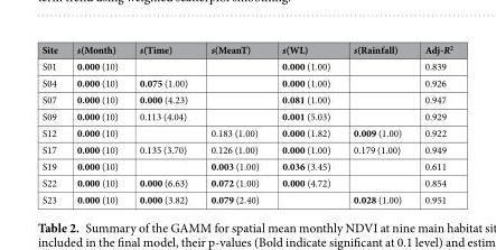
<table><thead><tr><td>Site</td><td>s(Month)</td><td>s(Time)</td><td>s(MeanT)</td><td>s(WL)</td><td>s(Rainfall)</td><td>Adj-R<sup>2</sup></td></tr></thead><tbody><tr><td>S01</td><td>0.000 (10)</td><td></td><td></td><td>0.000 (1.00)</td><td></td><td>0.839</td></tr><tr><td>S04</td><td>0.000 (10)</td><td>0.075 (1.00)</td><td></td><td>0.000 (1.00)</td><td></td><td>0.926</td></tr><tr><td>S07</td><td>0.000 (10)</td><td>0.000 (4.23)</td><td></td><td>0.081 (1.00)</td><td></td><td>0.947</td></tr><tr><td>S09</td><td>0.000 (10)</td><td>0.113 (4.04)</td><td></td><td>0.001 (5.03)</td><td></td><td>0.929</td></tr><tr><td>S12</td><td>0.000 (10)</td><td></td><td>0.183 (1.00)</td><td>0.000 (1.82)</td><td>0.009 (1.00)</td><td>0.922</td></tr><tr><td>S17</td><td>0.000 (10)</td><td>0.135 (3.70)</td><td>0.126 (1.00)</td><td>0.000 (1.00)</td><td>0.179 (1.00)</td><td>0.949</td></tr><tr><td>S19</td><td>0.000 (10)</td><td></td><td>0.003 (1.00)</td><td>0.036 (3.45)</td><td></td><td>0.611</td></tr><tr><td>S22</td><td>0.000 (10)</td><td>0.000 (6.63)</td><td>0.072 (1.00)</td><td>0.000 (4.72)</td><td></td><td>0.854</td></tr><tr><td>S23</td><td>0.000 (10)</td><td>0.000 (3.82)</td><td>0.079 (2.40)</td><td></td><td>0.028 (1.00)</td><td>0.951</td></tr></tbody></table>